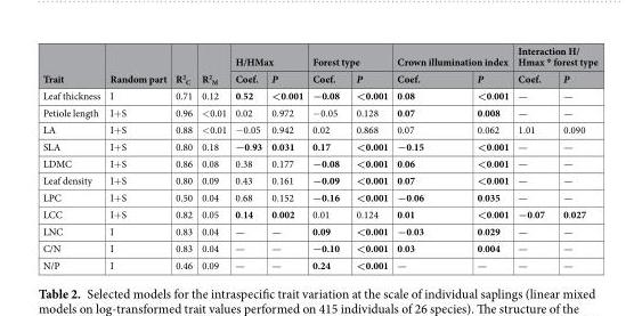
<table><thead><tr><td rowspan="2">Trait</td><td rowspan="2">Random part</td><td rowspan="2">R<sup>2</sup> <sub>C</sub></td><td rowspan="2">R<sup>2</sup> <sub>M</sub></td><td colspan="2">H/HMax</td><td colspan="2">Forest type</td><td colspan="2">Crown illumination index</td><td colspan="2">Interaction H/ Hmax * forest type</td></tr><tr><td>Coef.</td><td>P</td><td>Coef.</td><td>P</td><td>Coef.</td><td>P</td><td>Coef.</td><td>P</td></tr></thead><tbody><tr><td>Leaf thickness</td><td>I</td><td>0.71</td><td>0.12</td><td>0.52</td><td>&lt;0.001</td><td>−0.08</td><td>&lt;0.001</td><td>0.08</td><td>&lt;0.001</td><td>—</td><td>—</td></tr><tr><td>Petiole length</td><td>I+S</td><td>0.96</td><td>&lt;0.01</td><td>0.02</td><td>0.972</td><td>−0.05</td><td>0.128</td><td>0.07</td><td>0.008</td><td>—</td><td>—</td></tr><tr><td>LA</td><td>I+S</td><td>0.88</td><td>&lt;0.01</td><td>−0.05</td><td>0.942</td><td>0.02</td><td>0.868</td><td>0.07</td><td>0.062</td><td>1.01</td><td>0.090</td></tr><tr><td>SLA</td><td>I+S</td><td>0.80</td><td>0.18</td><td>−0.93</td><td>0.031</td><td>0.17</td><td>&lt;0.001</td><td>−0.15</td><td>&lt;0.001</td><td>—</td><td>—</td></tr><tr><td>LDMC</td><td>I+S</td><td>0.86</td><td>0.08</td><td>0.38</td><td>0.177</td><td>−0.08</td><td>&lt;0.001</td><td>0.06</td><td>&lt;0.001</td><td>—</td><td>—</td></tr><tr><td>Leaf density</td><td>I+S</td><td>0.80</td><td>0.09</td><td>0.43</td><td>0.161</td><td>−0.09</td><td>&lt;0.001</td><td>0.07</td><td>&lt;0.001</td><td>—</td><td>—</td></tr><tr><td>LPC</td><td>I+S</td><td>0.50</td><td>0.04</td><td>0.68</td><td>0.152</td><td>−0.16</td><td>&lt;0.001</td><td>−0.06</td><td>0.035</td><td>—</td><td>—</td></tr><tr><td>LCC</td><td>I+S</td><td>0.82</td><td>0.05</td><td>0.14</td><td>0.002</td><td>0.01</td><td>0.124</td><td>0.01</td><td>&lt;0.001</td><td>−0.07</td><td>0.027</td></tr><tr><td>LNC</td><td>I</td><td>0.83</td><td>0.04</td><td>—</td><td>—</td><td>0.09</td><td>&lt;0.001</td><td>−0.03</td><td>0.029</td><td>—</td><td>—</td></tr><tr><td>C/N</td><td>I</td><td>0.83</td><td>0.04</td><td>—</td><td>—</td><td>−0.10</td><td>&lt;0.001</td><td>0.03</td><td>0.004</td><td>—</td><td>—</td></tr><tr><td>N/P</td><td>I</td><td>0.46</td><td>0.09</td><td>—</td><td>—</td><td>0.24</td><td>&lt;0.001</td><td>—</td><td>—</td><td>—</td><td>—</td></tr></tbody></table>